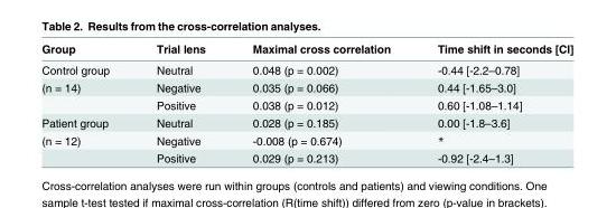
<table><thead><tr><td>Group</td><td>Trial lens</td><td>Maximal cross correlation</td><td>Time shift in seconds [CI]</td></tr></thead><tbody><tr><td>Control group</td><td>Neutral</td><td>0.048 (p = 0.002)</td><td>-0.44 [-2.2–0.78]</td></tr><tr><td rowspan="2">(n = 14)</td><td>Negative</td><td>0.035 (p = 0.066)</td><td>0.44 [-1.65–3.0]</td></tr><tr><td>Positive</td><td>0.038 (p = 0.012)</td><td>0.60 [-1.08–1.14]</td></tr><tr><td>Patient group</td><td>Neutral</td><td>0.028 (p = 0.185)</td><td>0.00 [-1.8–3.6]</td></tr><tr><td rowspan="2">(n = 12)</td><td>Negative</td><td>-0.008 (p = 0.674)</td><td>*</td></tr><tr><td>Positive</td><td>0.029 (p = 0.213)</td><td>-0.92 [-2.4–1.3]</td></tr></tbody></table>